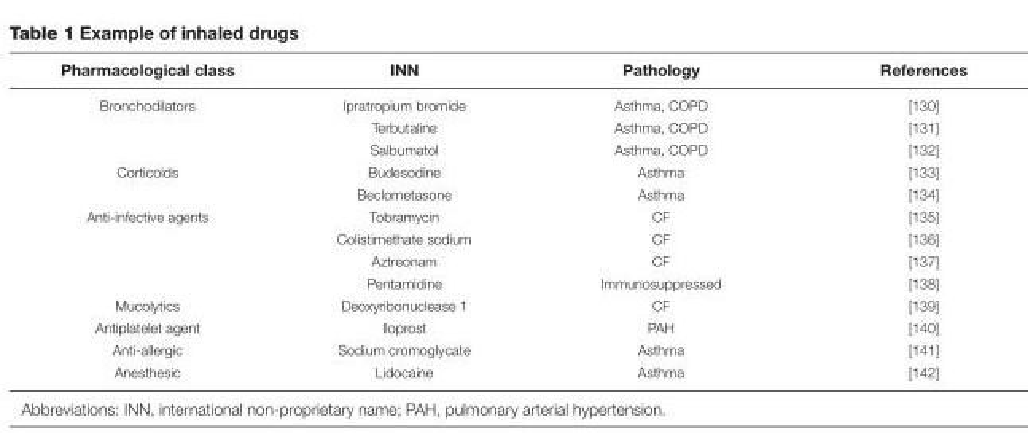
<table><thead><tr><td>Pharmacological class</td><td>INN</td><td>Pathology</td><td>References</td></tr></thead><tbody><tr><td rowspan="3">Bronchodilators</td><td>Ipratropium bromide</td><td>Asthma, COPD</td><td>[130]</td></tr><tr><td>Terbutaline</td><td>Asthma, COPD</td><td>[131]</td></tr><tr><td>Salbumatol</td><td>Asthma, COPD</td><td>[132]</td></tr><tr><td rowspan="2">Corticoids</td><td>Budesodine</td><td>Asthma</td><td>[133]</td></tr><tr><td>Beclometasone</td><td>Asthma</td><td>[134]</td></tr><tr><td rowspan="4">Anti-infective agents</td><td>Tobramycin</td><td>CF</td><td>[135]</td></tr><tr><td>Colistimethate sodium</td><td>CF</td><td>[136]</td></tr><tr><td>Aztreonam</td><td>CF</td><td>[137]</td></tr><tr><td>Pentamidine</td><td>Immunosuppressed</td><td>[138]</td></tr><tr><td>Mucolytics</td><td>Deoxyribonuclease 1</td><td>CF</td><td>[139]</td></tr><tr><td>Antiplatelet agent</td><td>Iloprost</td><td>PAH</td><td>[140]</td></tr><tr><td>Anti-allergic</td><td>Sodium cromoglycate</td><td>Asthma</td><td>[141]</td></tr><tr><td>Anesthesic</td><td>Lidocaine</td><td>Asthma</td><td>[142]</td></tr></tbody></table>